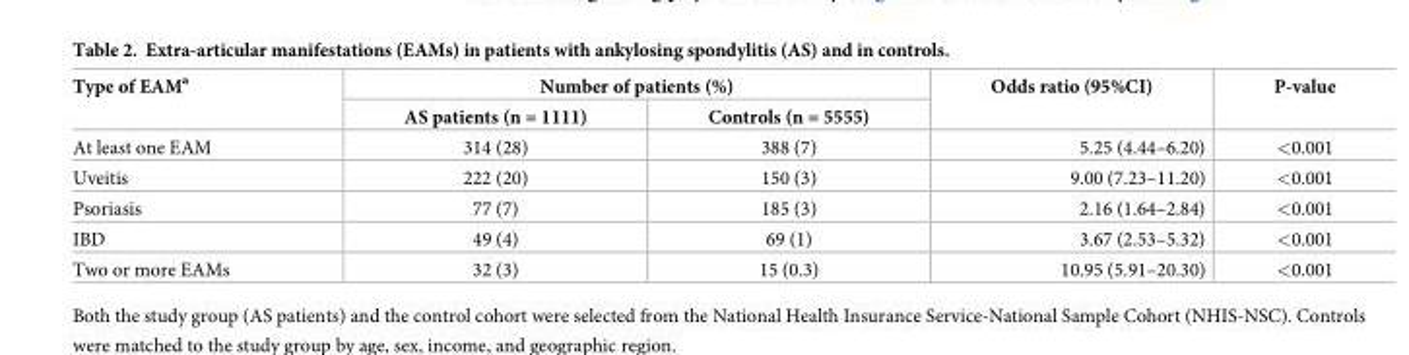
<table><thead><tr><td rowspan="2">Type of EAM<sup>a</sup></td><td colspan="2">Number of patients (%)</td><td rowspan="2">Odds ratio (95%CI)</td><td rowspan="2">P-value</td></tr><tr><td>AS patients (n = 1111)</td><td>Controls (n = 5555)</td></tr></thead><tbody><tr><td>At least one EAM</td><td>314 (28)</td><td>388 (7)</td><td>5.25 (4.44–6.20)</td><td>&lt;0.001</td></tr><tr><td>Uveitis</td><td>222 (20)</td><td>150 (3)</td><td>9.00 (7.23–11.20)</td><td>&lt;0.001</td></tr><tr><td>Psoriasis</td><td>77 (7)</td><td>185 (3)</td><td>2.16 (1.64–2.84)</td><td>&lt;0.001</td></tr><tr><td>IBD</td><td>49 (4)</td><td>69 (1)</td><td>3.67 (2.53–5.32)</td><td>&lt;0.001</td></tr><tr><td>Two or more EAMs</td><td>32 (3)</td><td>15 (0.3)</td><td>10.95 (5.91–20.30)</td><td>&lt;0.001</td></tr></tbody></table>